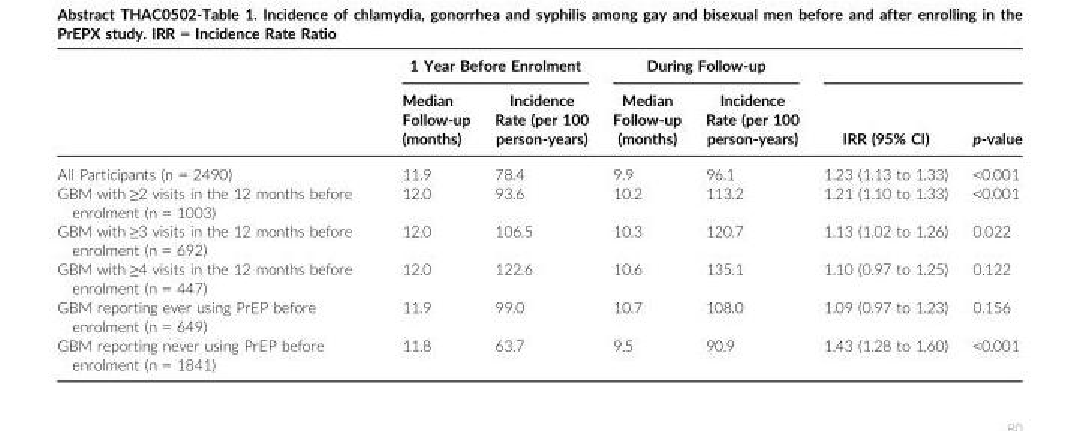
<table><thead><tr><td rowspan="2"></td><td colspan="2">1 Year Before Enrolment</td><td colspan="2">During Follow-up</td><td rowspan="2">IRR (95% CI)</td><td rowspan="2">p-value</td></tr><tr><td>Median Follow-up (months)</td><td>Incidence Rate (per 100 person-years)</td><td>Median Follow-up (months)</td><td>Incidence Rate (per 100 person-years)</td></tr></thead><tbody><tr><td>All Participants (n = 2490)</td><td>11.9</td><td>78.4</td><td>9.9</td><td>96.1</td><td>1.23 (1.13 to 1.33)</td><td>&lt;0.001</td></tr><tr><td>GBM with ≥2 visits in the 12 months before enrolment (n = 1003)</td><td>12.0</td><td>93.6</td><td>10.2</td><td>113.2</td><td>1.21 (1.10 to 1.33)</td><td>&lt;0.001</td></tr><tr><td>GBM with ≥3 visits in the 12 months before enrolment (n = 692)</td><td>12.0</td><td>106.5</td><td>10.3</td><td>120.7</td><td>1.13 (1.02 to 1.26)</td><td>0.022</td></tr><tr><td>GBM with ≥4 visits in the 12 months before enrolment (n = 447)</td><td>12.0</td><td>122.6</td><td>10.6</td><td>135.1</td><td>1.10 (0.97 to 1.25)</td><td>0.122</td></tr><tr><td>GBM reporting ever using PrEP before enrolment (n = 649)</td><td>11.9</td><td>99.0</td><td>10.7</td><td>108.0</td><td>1.09 (0.97 to 1.23)</td><td>0.156</td></tr><tr><td>GBM reporting never using PrEP before enrolment (n = 1841)</td><td>11.8</td><td>63.7</td><td>9.5</td><td>90.9</td><td>1.43 (1.28 to 1.60)</td><td>&lt;0.001</td></tr></tbody></table>